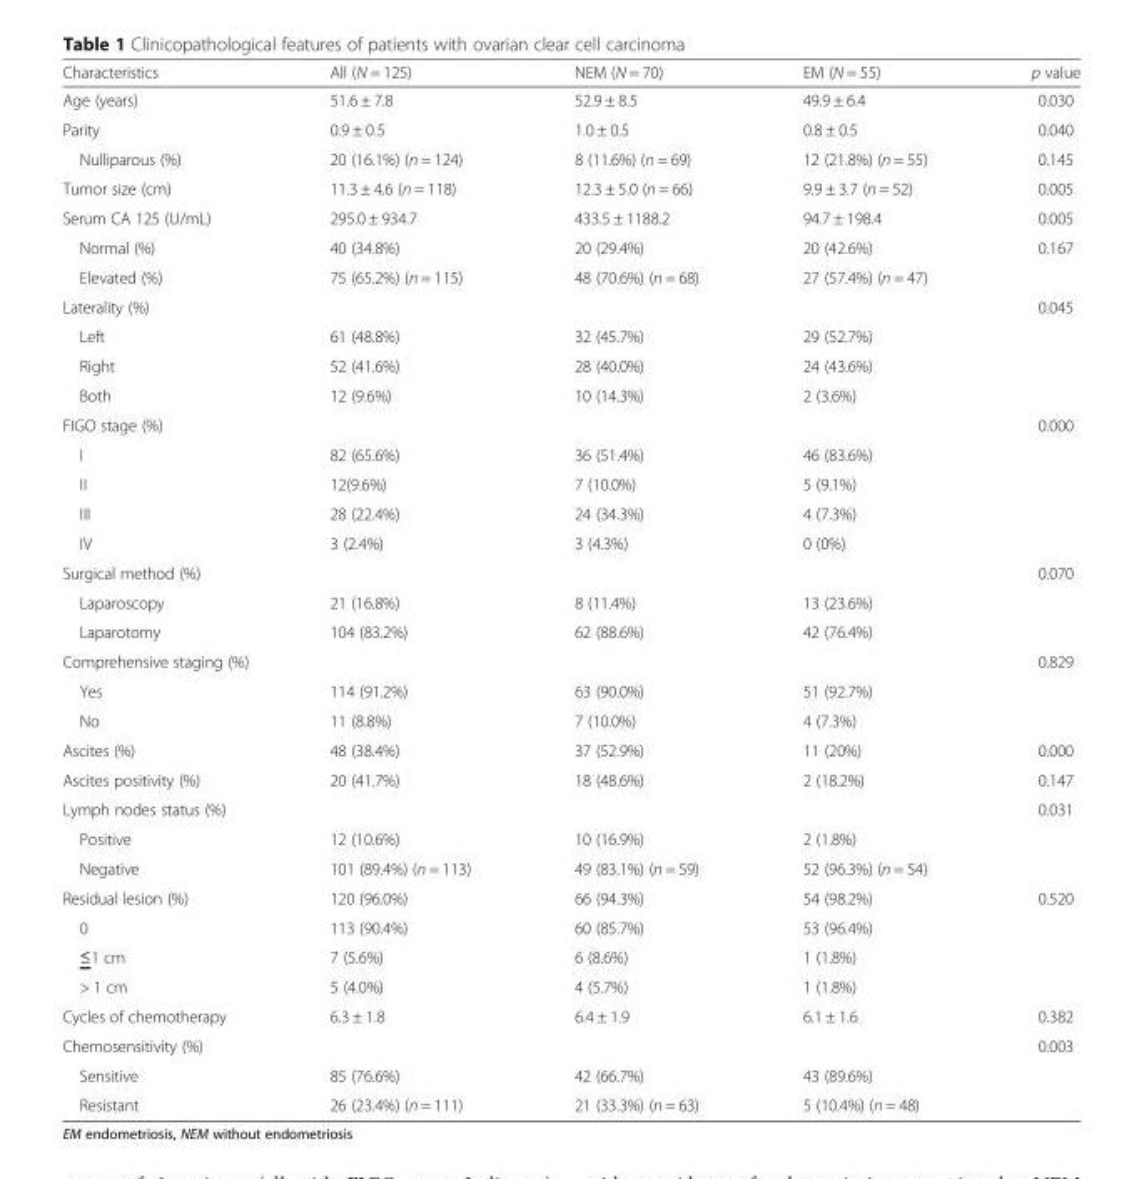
<table><thead><tr><td>Characteristics</td><td>All (N = 125)</td><td>NEM (N = 70)</td><td>EM (N = 55)</td><td>p value</td></tr></thead><tbody><tr><td>Age (years)</td><td>51.6 ± 7.8</td><td>52.9 ± 8.5</td><td>49.9 ± 6.4</td><td>0.030</td></tr><tr><td>Parity</td><td>0.9 ± 0.5</td><td>1.0 ± 0.5</td><td>0.8 ± 0.5</td><td>0.040</td></tr><tr><td>Nulliparous (%)</td><td>20 (16.1%) (n = 124)</td><td>8 (11.6%) (n = 69)</td><td>12 (21.8%) (n = 55)</td><td>0.145</td></tr><tr><td>Tumor size (cm)</td><td>11.3 ± 4.6 (n = 118)</td><td>12.3 ± 5.0 (n = 66)</td><td>9.9 ± 3.7 (n = 52)</td><td>0.005</td></tr><tr><td>Serum CA 125 (U/mL)</td><td>295.0 ± 934.7</td><td>433.5 ± 1188.2</td><td>94.7 ± 198.4</td><td>0.005</td></tr><tr><td>Normal (%)</td><td>40 (34.8%)</td><td>20 (29.4%)</td><td>20 (42.6%)</td><td rowspan="2">0.167</td></tr><tr><td>Elevated (%)</td><td>75 (65.2%) (n = 115)</td><td>48 (70.6%) (n = 68)</td><td>27 (57.4%) (n = 47)</td></tr><tr><td colspan="4">Laterality (%)</td><td>0.045</td></tr><tr><td>Left</td><td>61 (48.8%)</td><td>32 (45.7%)</td><td>29 (52.7%)</td><td rowspan="3"></td></tr><tr><td>Right</td><td>52 (41.6%)</td><td>28 (40.0%)</td><td>24 (43.6%)</td></tr><tr><td>Both</td><td>12 (9.6%)</td><td>10 (14.3%)</td><td>2 (3.6%)</td></tr><tr><td colspan="4">FIGO stage (%)</td><td>0.000</td></tr><tr><td>I</td><td>82 (65.6%)</td><td>36 (51.4%)</td><td>46 (83.6%)</td><td rowspan="4"></td></tr><tr><td>II</td><td>12(9.6%)</td><td>7 (10.0%)</td><td>5 (9.1%)</td></tr><tr><td>III</td><td>28 (22.4%)</td><td>24 (34.3%)</td><td>4 (7.3%)</td></tr><tr><td>IV</td><td>3 (2.4%)</td><td>3 (4.3%)</td><td>0 (0%)</td></tr><tr><td colspan="4">Surgical method (%)</td><td>0.070</td></tr><tr><td>Laparoscopy</td><td>21 (16.8%)</td><td>8 (11.4%)</td><td>13 (23.6%)</td><td rowspan="2"></td></tr><tr><td>Laparotomy</td><td>104 (83.2%)</td><td>62 (88.6%)</td><td>42 (76.4%)</td></tr><tr><td colspan="4">Comprehensive staging (%)</td><td>0.829</td></tr><tr><td>Yes</td><td>114 (91.2%)</td><td>63 (90.0%)</td><td>51 (92.7%)</td><td rowspan="2"></td></tr><tr><td>No</td><td>11 (8.8%)</td><td>7 (10.0%)</td><td>4 (7.3%)</td></tr><tr><td>Ascites (%)</td><td>48 (38.4%)</td><td>37 (52.9%)</td><td>11 (20%)</td><td>0.000</td></tr><tr><td>Ascites positivity (%)</td><td>20 (41.7%)</td><td>18 (48.6%)</td><td>2 (18.2%)</td><td>0.147</td></tr><tr><td colspan="4">Lymph nodes status (%)</td><td>0.031</td></tr><tr><td>Positive</td><td>12 (10.6%)</td><td>10 (16.9%)</td><td>2 (1.8%)</td><td rowspan="2"></td></tr><tr><td>Negative</td><td>101 (89.4%) (n = 113)</td><td>49 (83.1%) (n = 59)</td><td>52 (96.3%) (n = 54)</td></tr><tr><td>Residual lesion (%)</td><td>120 (96.0%)</td><td>66 (94.3%)</td><td>54 (98.2%)</td><td>0.520</td></tr><tr><td>0</td><td>113 (90.4%)</td><td>60 (85.7%)</td><td>53 (96.4%)</td><td rowspan="3"></td></tr><tr><td>≤1 cm</td><td>7 (5.6%)</td><td>6 (8.6%)</td><td>1 (1.8%)</td></tr><tr><td>&gt; 1 cm</td><td>5 (4.0%)</td><td>4 (5.7%)</td><td>1 (1.8%)</td></tr><tr><td>Cycles of chemotherapy</td><td>6.3 ± 1.8</td><td>6.4 ± 1.9</td><td>6.1 ± 1.6</td><td>0.382</td></tr><tr><td colspan="4">Chemosensitivity (%)</td><td>0.003</td></tr><tr><td>Sensitive</td><td>85 (76.6%)</td><td>42 (66.7%)</td><td>43 (89.6%)</td><td rowspan="2"></td></tr><tr><td>Resistant</td><td>26 (23.4%) (n = 111)</td><td>21 (33.3%) (n = 63)</td><td>5 (10.4%) (n = 48)</td></tr></tbody></table>